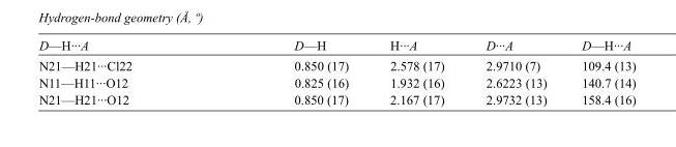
<table><tbody><tr><td>D—H···A</td><td>D—H</td><td>H···A</td><td>D···A</td><td>D—H···A</td></tr><tr><td>N21—H21···Cl22</td><td>0.850 (17)</td><td>2.578 (17)</td><td>2.9710 (7)</td><td>109.4 (13)</td></tr><tr><td>N11—H11···O12</td><td>0.825 (16)</td><td>1.932 (16)</td><td>2.6223 (13)</td><td>140.7 (14)</td></tr><tr><td>N21—H21···O12</td><td>0.850 (17)</td><td>2.167 (17)</td><td>2.9732 (13)</td><td>158.4 (16)</td></tr></tbody></table>